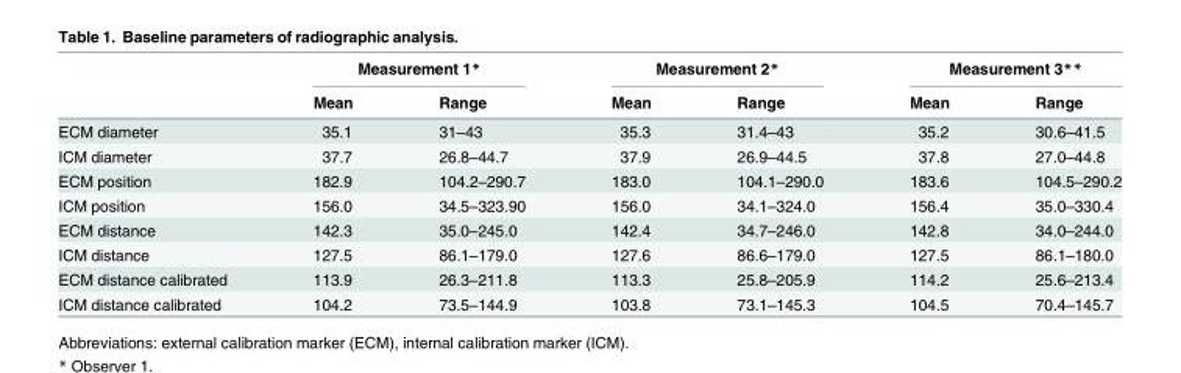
<table><thead><tr><td rowspan="2"></td><td colspan="2">Measurement 1*</td><td colspan="2">Measurement 2*</td><td colspan="2">Measurement 3**</td></tr><tr><td>Mean</td><td>Range</td><td>Mean</td><td>Range</td><td>Mean</td><td>Range</td></tr></thead><tbody><tr><td>ECM diameter</td><td>35.1</td><td>31–43</td><td>35.3</td><td>31.4–43</td><td>35.2</td><td>30.6–41.5</td></tr><tr><td>ICM diameter</td><td>37.7</td><td>26.8–44.7</td><td>37.9</td><td>26.9–44.5</td><td>37.8</td><td>27.0–44.8</td></tr><tr><td>ECM position</td><td>182.9</td><td>104.2–290.7</td><td>183.0</td><td>104.1–290.0</td><td>183.6</td><td>104.5–290.2</td></tr><tr><td>ICM position</td><td>156.0</td><td>34.5–323.90</td><td>156.0</td><td>34.1–324.0</td><td>156.4</td><td>35.0–330.4</td></tr><tr><td>ECM distance</td><td>142.3</td><td>35.0–245.0</td><td>142.4</td><td>34.7–246.0</td><td>142.8</td><td>34.0–244.0</td></tr><tr><td>ICM distance</td><td>127.5</td><td>86.1–179.0</td><td>127.6</td><td>86.6–179.0</td><td>127.5</td><td>86.1–180.0</td></tr><tr><td>ECM distance calibrated</td><td>113.9</td><td>26.3–211.8</td><td>113.3</td><td>25.8–205.9</td><td>114.2</td><td>25.6–213.4</td></tr><tr><td>ICM distance calibrated</td><td>104.2</td><td>73.5–144.9</td><td>103.8</td><td>73.1–145.3</td><td>104.5</td><td>70.4–145.7</td></tr></tbody></table>